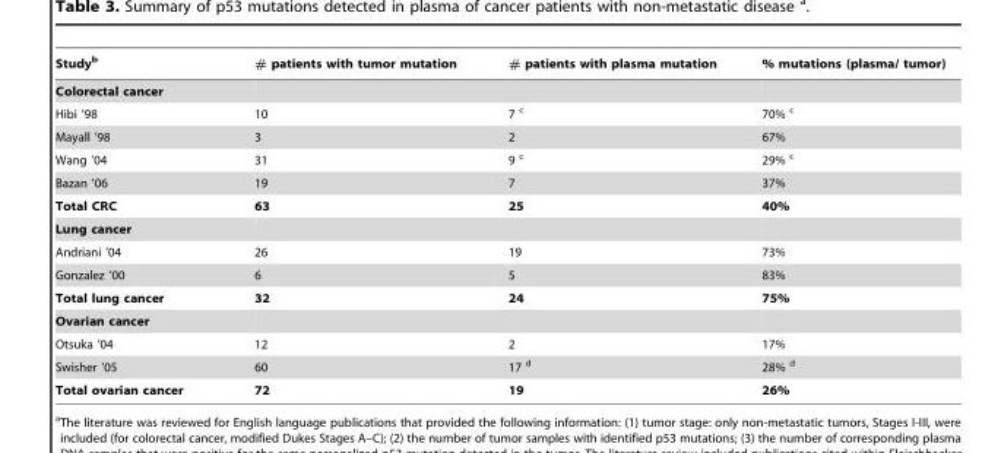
<table><thead><tr><td>Study<sup>b</sup></td><td># patients with tumor mutation</td><td># patients with plasma mutation</td><td>% mutations (plasma/ tumor)</td></tr></thead><tbody><tr><td colspan="4">Colorectal cancer</td></tr><tr><td>Hibi ’98</td><td>10</td><td>7 c</td><td>70% c</td></tr><tr><td>Mayall ’98</td><td>3</td><td>2</td><td>67%</td></tr><tr><td>Wang ’04</td><td>31</td><td>9 c</td><td>29% c</td></tr><tr><td>Bazan ’06</td><td>19</td><td>7</td><td>37%</td></tr><tr><td>Total CRC</td><td>63</td><td>25</td><td>40%</td></tr><tr><td colspan="4">Lung cancer</td></tr><tr><td>Andriani ’04</td><td>26</td><td>19</td><td>73%</td></tr><tr><td>Gonzalez ’00</td><td>6</td><td>5</td><td>83%</td></tr><tr><td>Total lung cancer</td><td>32</td><td>24</td><td>75%</td></tr><tr><td colspan="4">Ovarian cancer</td></tr><tr><td>Otsuka ’04</td><td>12</td><td>2</td><td>17%</td></tr><tr><td>Swisher ’05</td><td>60</td><td>17 d</td><td>28% d</td></tr><tr><td>Total ovarian cancer</td><td>72</td><td>19</td><td>26%</td></tr></tbody></table>